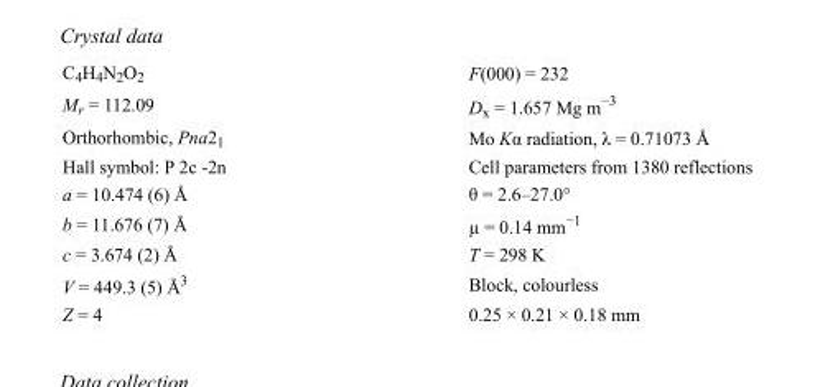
<table><tbody><tr><td>C<sub>4</sub>H<sub>4</sub>N<sub>2</sub>O<sub>2</sub></td><td>F(000) = 232</td></tr><tr><td>M<sub>r</sub> = 112.09</td><td>D<sub>x</sub> = 1.657 Mg m<sup>−3</sup></td></tr><tr><td>Orthorhombic, Pna2<sub>1</sub></td><td>Mo Kα radiation, λ = 0.71073 Å</td></tr><tr><td>Hall symbol: P 2c -2n</td><td>Cell parameters from 1380 reflections</td></tr><tr><td>a = 10.474 (6) Å</td><td>θ = 2.6–27.0°</td></tr><tr><td>b = 11.676 (7) Å</td><td>µ = 0.14 mm<sup>−1</sup></td></tr><tr><td>c = 3.674 (2) Å</td><td>T = 298 K</td></tr><tr><td>V = 449.3 (5) Å<sup>3</sup></td><td>Block, colourless</td></tr><tr><td>Z = 4</td><td>0.25 × 0.21 × 0.18 mm</td></tr></tbody></table>